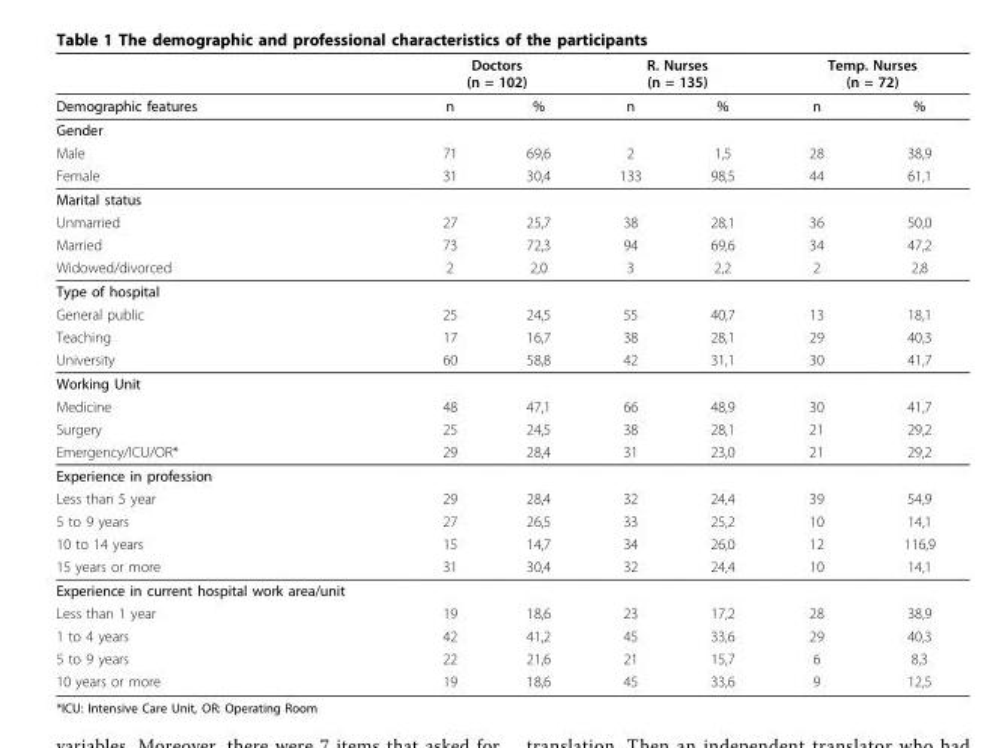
<table><thead><tr><td rowspan="2">Demographic features</td><td colspan="2">Doctors (n = 102)</td><td colspan="2">R. Nurses (n = 135)</td><td colspan="2">Temp. Nurses (n = 72)</td></tr><tr><td>n</td><td>%</td><td>n</td><td>%</td><td>n</td><td>%</td></tr></thead><tbody><tr><td colspan="7">Gender</td></tr><tr><td>Male</td><td>71</td><td>69,6</td><td>2</td><td>1,5</td><td>28</td><td>38,9</td></tr><tr><td>Female</td><td>31</td><td>30,4</td><td>133</td><td>98,5</td><td>44</td><td>61,1</td></tr><tr><td colspan="7">Marital status</td></tr><tr><td>Unmarried</td><td>27</td><td>25,7</td><td>38</td><td>28,1</td><td>36</td><td>50,0</td></tr><tr><td>Married</td><td>73</td><td>72,3</td><td>94</td><td>69,6</td><td>34</td><td>47,2</td></tr><tr><td>Widowed/divorced</td><td>2</td><td>2,0</td><td>3</td><td>2,2</td><td>2</td><td>2,8</td></tr><tr><td colspan="7">Type of hospital</td></tr><tr><td>General public</td><td>25</td><td>24,5</td><td>55</td><td>40,7</td><td>13</td><td>18,1</td></tr><tr><td>Teaching</td><td>17</td><td>16,7</td><td>38</td><td>28,1</td><td>29</td><td>40,3</td></tr><tr><td>University</td><td>60</td><td>58,8</td><td>42</td><td>31,1</td><td>30</td><td>41,7</td></tr><tr><td colspan="7">Working Unit</td></tr><tr><td>Medicine</td><td>48</td><td>47,1</td><td>66</td><td>48,9</td><td>30</td><td>41,7</td></tr><tr><td>Surgery</td><td>25</td><td>24,5</td><td>38</td><td>28,1</td><td>21</td><td>29,2</td></tr><tr><td>Emergency/ICU/OR*</td><td>29</td><td>28,4</td><td>31</td><td>23,0</td><td>21</td><td>29,2</td></tr><tr><td colspan="7">Experience in profession</td></tr><tr><td>Less than 5 year</td><td>29</td><td>28,4</td><td>32</td><td>24,4</td><td>39</td><td>54,9</td></tr><tr><td>5 to 9 years</td><td>27</td><td>26,5</td><td>33</td><td>25,2</td><td>10</td><td>14,1</td></tr><tr><td>10 to 14 years</td><td>15</td><td>14,7</td><td>34</td><td>26,0</td><td>12</td><td>116,9</td></tr><tr><td>15 years or more</td><td>31</td><td>30,4</td><td>32</td><td>24,4</td><td>10</td><td>14,1</td></tr><tr><td colspan="7">Experience in current hospital work area/unit</td></tr><tr><td>Less than 1 year</td><td>19</td><td>18,6</td><td>23</td><td>17,2</td><td>28</td><td>38,9</td></tr><tr><td>1 to 4 years</td><td>42</td><td>41,2</td><td>45</td><td>33,6</td><td>29</td><td>40,3</td></tr><tr><td>5 to 9 years</td><td>22</td><td>21,6</td><td>21</td><td>15,7</td><td>6</td><td>8,3</td></tr><tr><td>10 years or more</td><td>19</td><td>18,6</td><td>45</td><td>33,6</td><td>9</td><td>12,5</td></tr></tbody></table>